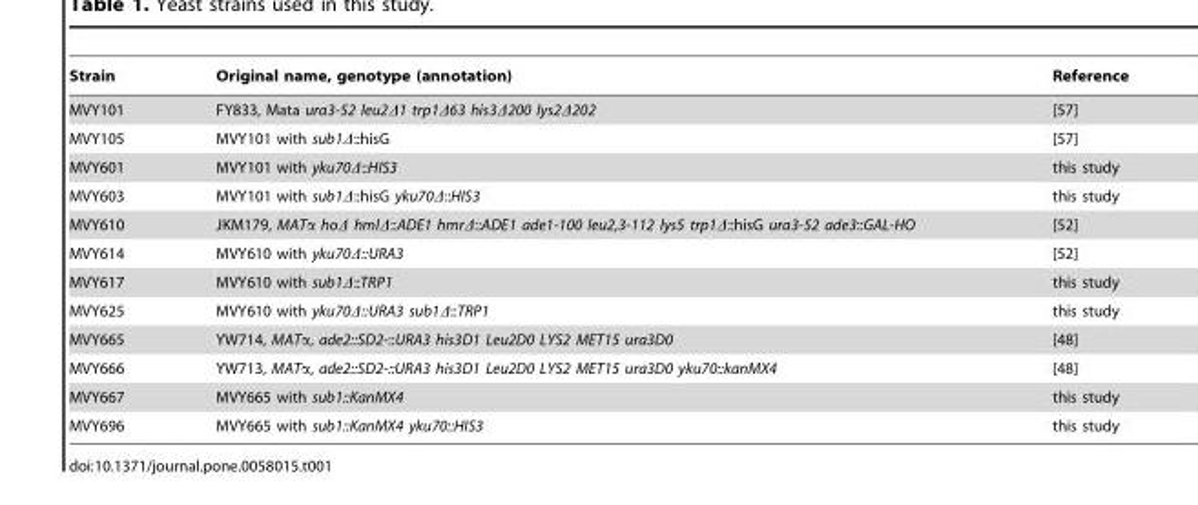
<table><thead><tr><td>Strain</td><td>Original name, genotype (annotation)</td><td>Reference</td></tr></thead><tbody><tr><td>MVY101</td><td>FY833, Mata ura3-52 leu2Δ1 trp1Δ63 his3Δ200 lys2Δ202</td><td>[57]</td></tr><tr><td>MVY105</td><td>MVY101 with sub1Δ::hisG</td><td>[57]</td></tr><tr><td>MVY601</td><td>MVY101 with yku70Δ::HIS3</td><td>this study</td></tr><tr><td>MVY603</td><td>MVY101 with sub1Δ::hisG yku70Δ::HIS3</td><td>this study</td></tr><tr><td>MVY610</td><td>JKM179, MATα hoΔ hmlΔ::ADE1 hmrΔ::ADE1 ade1-100 leu2,3-112 lys5 trp1Δ::hisG ura3-52 ade3::GAL-HO</td><td>[52]</td></tr><tr><td>MVY614</td><td>MVY610 with yku70Δ::URA3</td><td>[52]</td></tr><tr><td>MVY617</td><td>MVY610 with sub1Δ::TRP1</td><td>this study</td></tr><tr><td>MVY625</td><td>MVY610 with yku70Δ::URA3 sub1Δ::TRP1</td><td>this study</td></tr><tr><td>MVY665</td><td>YW714, MATα, ade2::SD2-::URA3 his3D1 Leu2D0 LYS2 MET15 ura3D0</td><td>[48]</td></tr><tr><td>MVY666</td><td>YW713, MATα, ade2::SD2-::URA3 his3D1 Leu2D0 LYS2 MET15 ura3D0 yku70::kanMX4</td><td>[48]</td></tr><tr><td>MVY667</td><td>MVY665 with sub1::KanMX4</td><td>this study</td></tr><tr><td>MVY696</td><td>MVY665 with sub1::KanMX4 yku70::HIS3</td><td>this study</td></tr></tbody></table>